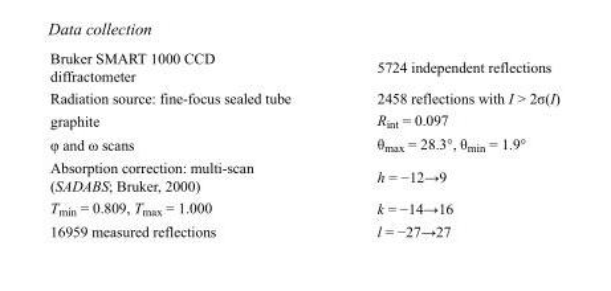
<table><tbody><tr><td>Bruker SMART 1000 CCD diffractometer</td><td>5724 independent reflections</td></tr><tr><td>Radiation source: fine-focus sealed tube</td><td>2458 reflections with I &gt; 2σ(I)</td></tr><tr><td>graphite</td><td>R<sub>int</sub> = 0.097</td></tr><tr><td>φ and ω scans</td><td>θ<sub>max</sub> = 28.3°, θ<sub>min</sub> = 1.9°</td></tr><tr><td>Absorption correction: multi-scan (SADABS; Bruker, 2000)</td><td>h = −12→9</td></tr><tr><td>T<sub>min</sub> = 0.809, T<sub>max</sub> = 1.000</td><td>k = −14→16</td></tr><tr><td>16959 measured reflections</td><td>l = −27→27</td></tr></tbody></table>